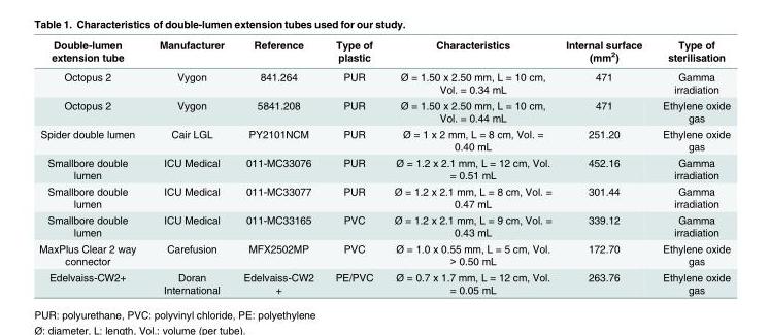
<table><thead><tr><td>Double-lumen extension tube</td><td>Manufacturer</td><td>Reference</td><td>Type of plastic</td><td>Characteristics</td><td>Internal surface (mm<sup>2</sup>)</td><td>Type of sterilisation</td></tr></thead><tbody><tr><td>Octopus 2</td><td>Vygon</td><td>841.264</td><td>PUR</td><td>Ø = 1.50 x 2.50 mm, L = 10 cm, Vol. = 0.34 mL</td><td>471</td><td>Gamma irradiation</td></tr><tr><td>Octopus 2</td><td>Vygon</td><td>5841.208</td><td>PUR</td><td>Ø = 1.50 x 2.50 mm, L = 10 cm, Vol. = 0.44 mL</td><td>471</td><td>Ethylene oxide gas</td></tr><tr><td>Spider double lumen</td><td>Cair LGL</td><td>PY2101NCM</td><td>PUR</td><td>Ø = 1 x 2 mm, L = 8 cm, Vol. = 0.40 mL</td><td>251.20</td><td>Ethylene oxide gas</td></tr><tr><td>Smallbore double lumen</td><td>ICU Medical</td><td>011-MC33076</td><td>PUR</td><td>Ø = 1.2 x 2.1 mm, L = 12 cm, Vol. = 0.51 mL</td><td>452.16</td><td>Gamma irradiation</td></tr><tr><td>Smallbore double lumen</td><td>ICU Medical</td><td>011-MC33077</td><td>PUR</td><td>Ø = 1.2 x 2.1 mm, L = 8 cm, Vol. = 0.47 mL</td><td>301.44</td><td>Gamma irradiation</td></tr><tr><td>Smallbore double lumen</td><td>ICU Medical</td><td>011-MC33165</td><td>PVC</td><td>Ø = 1.2 x 2.1 mm, L = 9 cm, Vol. = 0.43 mL</td><td>339.12</td><td>Gamma irradiation</td></tr><tr><td>MaxPlus Clear 2 way connector</td><td>Carefusion</td><td>MFX2502MP</td><td>PVC</td><td>Ø = 1.0 x 0.55 mm, L = 5 cm, Vol. &gt; 0.50 mL</td><td>172.70</td><td>Ethylene oxide gas</td></tr><tr><td>Edelvaiss-CW2+</td><td>Doran International</td><td>Edelvaiss-CW2 +</td><td>PE/PVC</td><td>Ø = 0.7 x 1.7 mm, L = 12 cm, Vol. = 0.05 mL</td><td>263.76</td><td>Ethylene oxide gas</td></tr></tbody></table>